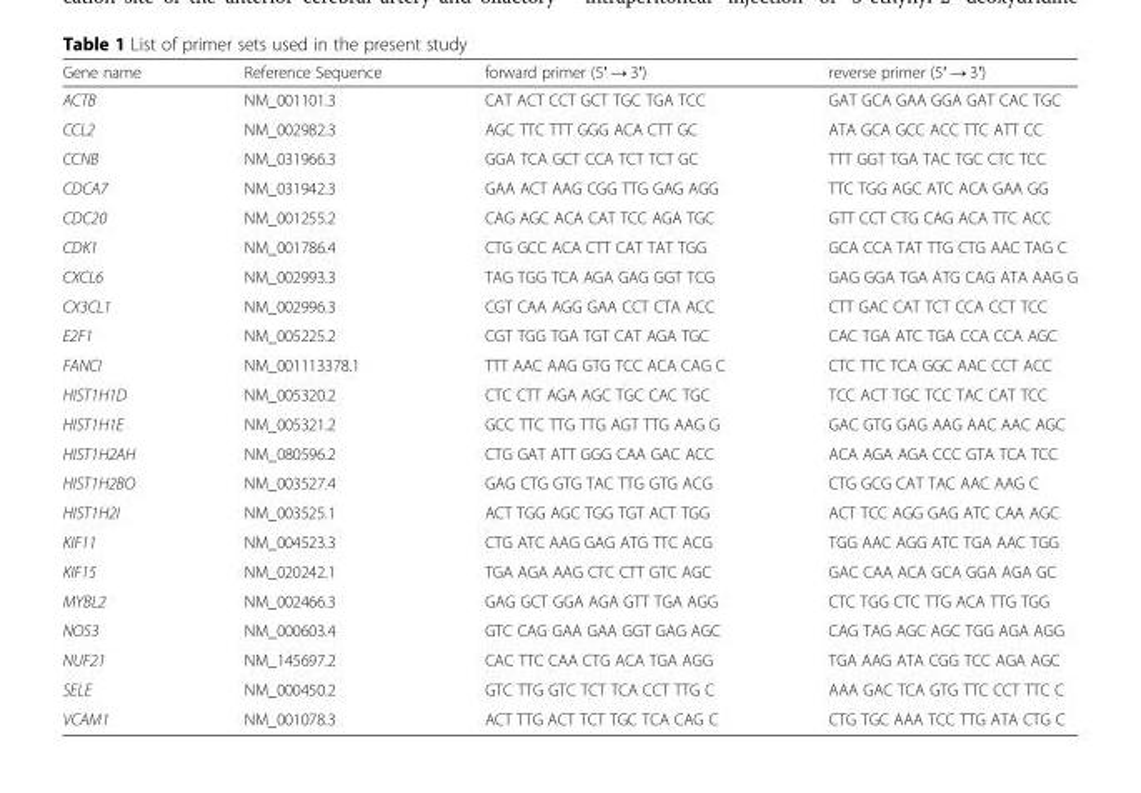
<table><thead><tr><td>Gene name</td><td>Reference Sequence</td><td>forward primer (5′ → 3′)</td><td>reverse primer (5′ → 3′)</td></tr></thead><tbody><tr><td>ACTB</td><td>NM_001101.3</td><td>CAT ACT CCT GCT TGC TGA TCC</td><td>GAT GCA GAA GGA GAT CAC TGC</td></tr><tr><td>CCL2</td><td>NM_002982.3</td><td>AGC TTC TTT GGG ACA CTT GC</td><td>ATA GCA GCC ACC TTC ATT CC</td></tr><tr><td>CCNB</td><td>NM_031966.3</td><td>GGA TCA GCT CCA TCT TCT GC</td><td>TTT GGT TGA TAC TGC CTC TCC</td></tr><tr><td>CDCA7</td><td>NM_031942.3</td><td>GAA ACT AAG CGG TTG GAG AGG</td><td>TTC TGG AGC ATC ACA GAA GG</td></tr><tr><td>CDC20</td><td>NM_001255.2</td><td>CAG AGC ACA CAT TCC AGA TGC</td><td>GTT CCT CTG CAG ACA TTC ACC</td></tr><tr><td>CDK1</td><td>NM_001786.4</td><td>CTG GCC ACA CTT CAT TAT TGG</td><td>GCA CCA TAT TTG CTG AAC TAG C</td></tr><tr><td>CXCL6</td><td>NM_002993.3</td><td>TAG TGG TCA AGA GAG GGT TCG</td><td>GAG GGA TGA ATG CAG ATA AAG G</td></tr><tr><td>CX3CL1</td><td>NM_002996.3</td><td>CGT CAA AGG GAA CCT CTA ACC</td><td>CTT GAC CAT TCT CCA CCT TCC</td></tr><tr><td>E2F1</td><td>NM_005225.2</td><td>CGT TGG TGA TGT CAT AGA TGC</td><td>CAC TGA ATC TGA CCA CCA AGC</td></tr><tr><td>FANCI</td><td>NM_001113378.1</td><td>TTT AAC AAG GTG TCC ACA CAG C</td><td>CTC TTC TCA GGC AAC CCT ACC</td></tr><tr><td>HIST1H1D</td><td>NM_005320.2</td><td>CTC CTT AGA AGC TGC CAC TGC</td><td>TCC ACT TGC TCC TAC CAT TCC</td></tr><tr><td>HIST1H1E</td><td>NM_005321.2</td><td>GCC TTC TTG TTG AGT TTG AAG G</td><td>GAC GTG GAG AAG AAC AAC AGC</td></tr><tr><td>HIST1H2AH</td><td>NM_080596.2</td><td>CTG GAT ATT GGG CAA GAC ACC</td><td>ACA AGA AGA CCC GTA TCA TCC</td></tr><tr><td>HIST1H2BO</td><td>NM_003527.4</td><td>GAG CTG GTG TAC TTG GTG ACG</td><td>CTG GCG CAT TAC AAC AAG C</td></tr><tr><td>HIST1H2I</td><td>NM_003525.1</td><td>ACT TGG AGC TGG TGT ACT TGG</td><td>ACT TCC AGG GAG ATC CAA AGC</td></tr><tr><td>KIF11</td><td>NM_004523.3</td><td>CTG ATC AAG GAG ATG TTC ACG</td><td>TGG AAC AGG ATC TGA AAC TGG</td></tr><tr><td>KIF15</td><td>NM_020242.1</td><td>TGA AGA AAG CTC CTT GTC AGC</td><td>GAC CAA ACA GCA GGA AGA GC</td></tr><tr><td>MYBL2</td><td>NM_002466.3</td><td>GAG GCT GGA AGA GTT TGA AGG</td><td>CTC TGG CTC TTG ACA TTG TGG</td></tr><tr><td>NOS3</td><td>NM_000603.4</td><td>GTC CAG GAA GAA GGT GAG AGC</td><td>CAG TAG AGC AGC TGG AGA AGG</td></tr><tr><td>NUF21</td><td>NM_145697.2</td><td>CAC TTC CAA CTG ACA TGA AGG</td><td>TGA AAG ATA CGG TCC AGA AGC</td></tr><tr><td>SELE</td><td>NM_000450.2</td><td>GTC TTG GTC TCT TCA CCT TTG C</td><td>AAA GAC TCA GTG TTC CCT TTC C</td></tr><tr><td>VCAM1</td><td>NM_001078.3</td><td>ACT TTG ACT TCT TGC TCA CAG C</td><td>CTG TGC AAA TCC TTG ATA CTG C</td></tr></tbody></table>